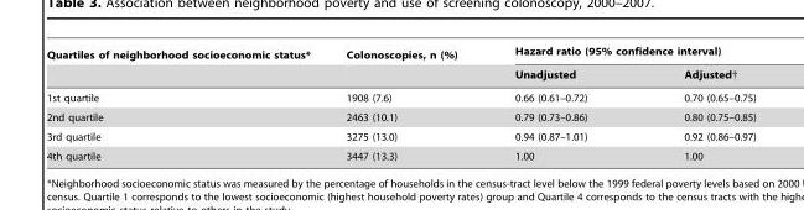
<table><thead><tr><td rowspan="2">Quartiles of neighborhood socioeconomic status*</td><td rowspan="2">Colonoscopies, n (%)</td><td colspan="2">Hazard ratio (95% confidence interval)</td></tr><tr><td>Unadjusted</td><td>Adjusted†</td></tr></thead><tbody><tr><td>1st quartile</td><td>1908 (7.6)</td><td>0.66 (0.61–0.72)</td><td>0.70 (0.65–0.75)</td></tr><tr><td>2nd quartile</td><td>2463 (10.1)</td><td>0.79 (0.73–0.86)</td><td>0.80 (0.75–0.85)</td></tr><tr><td>3rd quartile</td><td>3275 (13.0)</td><td>0.94 (0.87–1.01)</td><td>0.92 (0.86–0.97)</td></tr><tr><td>4th quartile</td><td>3447 (13.3)</td><td>1.00</td><td>1.00</td></tr></tbody></table>